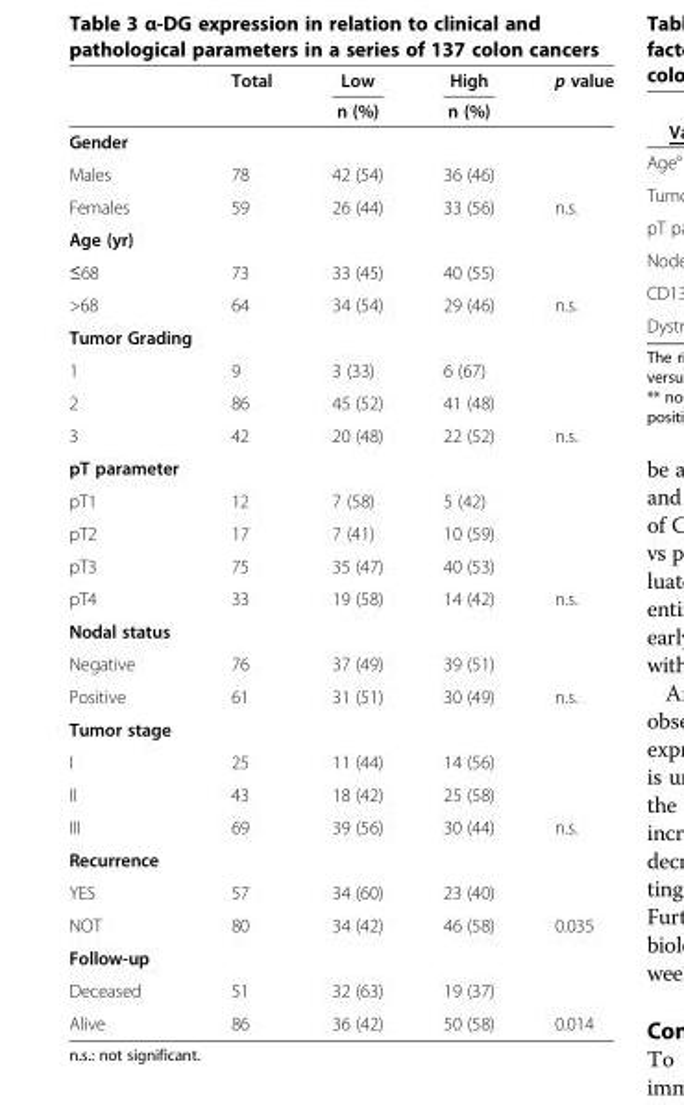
<table><thead><tr><td rowspan="2"></td><td rowspan="2">Total</td><td rowspan="2">Low n (%)</td><td rowspan="2">High n (%)</td><td rowspan="2">p value</td></tr><tr></tr></thead><tbody><tr><td colspan="5">Gender</td></tr><tr><td>Males</td><td>78</td><td>42 (54)</td><td>36 (46)</td><td></td></tr><tr><td>Females</td><td>59</td><td>26 (44)</td><td>33 (56)</td><td>n.s.</td></tr><tr><td colspan="5">Age (yr)</td></tr><tr><td>≤68</td><td>73</td><td>33 (45)</td><td>40 (55)</td><td></td></tr><tr><td>&gt;68</td><td>64</td><td>34 (54)</td><td>29 (46)</td><td>n.s.</td></tr><tr><td colspan="5">Tumor Grading</td></tr><tr><td>1</td><td>9</td><td>3 (33)</td><td>6 (67)</td><td></td></tr><tr><td>2</td><td>86</td><td>45 (52)</td><td>41 (48)</td><td></td></tr><tr><td>3</td><td>42</td><td>20 (48)</td><td>22 (52)</td><td>n.s.</td></tr><tr><td colspan="5">pT parameter</td></tr><tr><td>pT1</td><td>12</td><td>7 (58)</td><td>5 (42)</td><td></td></tr><tr><td>pT2</td><td>17</td><td>7 (41)</td><td>10 (59)</td><td></td></tr><tr><td>pT3</td><td>75</td><td>35 (47)</td><td>40 (53)</td><td></td></tr><tr><td>pT4</td><td>33</td><td>19 (58)</td><td>14 (42)</td><td>n.s.</td></tr><tr><td colspan="5">Nodal status</td></tr><tr><td>Negative</td><td>76</td><td>37 (49)</td><td>39 (51)</td><td></td></tr><tr><td>Positive</td><td>61</td><td>31 (51)</td><td>30 (49)</td><td>n.s.</td></tr><tr><td colspan="5">Tumor stage</td></tr><tr><td>I</td><td>25</td><td>11 (44)</td><td>14 (56)</td><td></td></tr><tr><td>II</td><td>43</td><td>18 (42)</td><td>25 (58)</td><td></td></tr><tr><td>III</td><td>69</td><td>39 (56)</td><td>30 (44)</td><td>n.s.</td></tr><tr><td colspan="5">Recurrence</td></tr><tr><td>YES</td><td>57</td><td>34 (60)</td><td>23 (40)</td><td></td></tr><tr><td>NOT</td><td>80</td><td>34 (42)</td><td>46 (58)</td><td>0.035</td></tr><tr><td colspan="5">Follow-up</td></tr><tr><td>Deceased</td><td>51</td><td>32 (63)</td><td>19 (37)</td><td></td></tr><tr><td>Alive</td><td>86</td><td>36 (42)</td><td>50 (58)</td><td>0.014</td></tr></tbody></table>